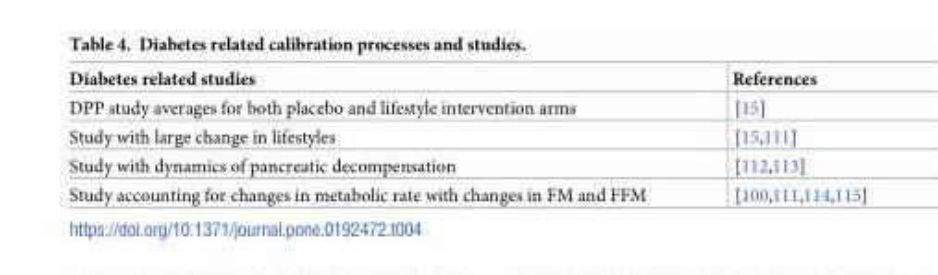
<table><thead><tr><td>Diabetes related studies</td><td>References</td></tr></thead><tbody><tr><td>DPP study averages for both placebo and lifestyle intervention arms</td><td>[15]</td></tr><tr><td>Study with large change in lifestyles</td><td>[15,111]</td></tr><tr><td>Study with dynamics of pancreatic decompensation</td><td>[112,113]</td></tr><tr><td>Study accounting for changes in metabolic rate with changes in FM and FFM</td><td>[100,111,114,115]</td></tr></tbody></table>